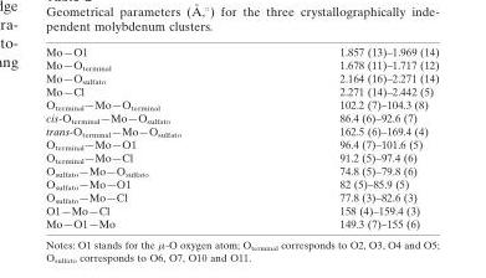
<table><tbody><tr><td>Mo—O1</td><td>1.857 (13)–1.969 (14)</td></tr><tr><td>Mo—O<sub>terminal</sub></td><td>1.678 (11)–1.717 (12)</td></tr><tr><td>Mo—O<sub>sulfato</sub></td><td>2.164 (16)–2.271 (14)</td></tr><tr><td>Mo—Cl</td><td>2.271 (14)–2.442 (5)</td></tr><tr><td>O<sub>terminal</sub>—Mo—O<sub>terminal</sub></td><td>102.2 (7)–104.3 (8)</td></tr><tr><td>cis-O<sub>terminal</sub>—Mo—O<sub>sulfato</sub></td><td>86.4 (6)–92.6 (7)</td></tr><tr><td>trans-O<sub>terminal</sub>—Mo—O<sub>sulfato</sub></td><td>162.5 (6)–169.4 (4)</td></tr><tr><td>O<sub>terminal</sub>—Mo—O1</td><td>96.4 (7)–101.6 (5)</td></tr><tr><td>O<sub>terminal</sub>—Mo—Cl</td><td>91.2 (5)–97.4 (6)</td></tr><tr><td>O<sub>sulfato</sub>—Mo—O<sub>sulfato</sub></td><td>74.8 (5)–79.8 (6)</td></tr><tr><td>O<sub>sulfato</sub>—Mo—O1</td><td>82 (5)–85.9 (5)</td></tr><tr><td>O<sub>sulfato</sub>—Mo—Cl</td><td>77.8 (3)–82.6 (3)</td></tr><tr><td>O1—Mo—Cl</td><td>158 (4)–159.4 (3)</td></tr><tr><td>Mo—O1—Mo</td><td>149.3 (7)–155 (6)</td></tr></tbody></table>